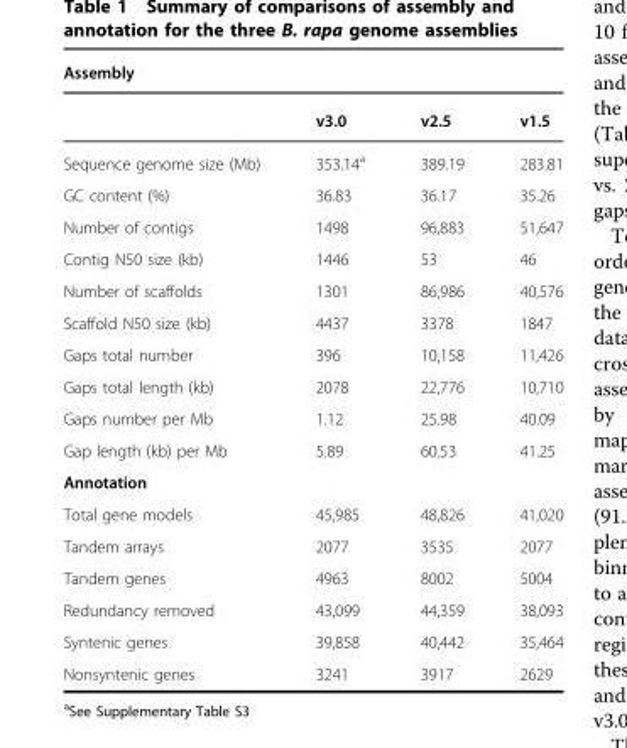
<table><thead><tr><td colspan="4">Assembly</td></tr><tr><td></td><td>v3.0</td><td>v2.5</td><td>v1.5</td></tr></thead><tbody><tr><td>Sequence genome size (Mb)</td><td>353.14<sup>a</sup></td><td>389.19</td><td>283.81</td></tr><tr><td>GC content (%)</td><td>36.83</td><td>36.17</td><td>35.26</td></tr><tr><td>Number of contigs</td><td>1498</td><td>96,883</td><td>51,647</td></tr><tr><td>Contig N50 size (kb)</td><td>1446</td><td>53</td><td>46</td></tr><tr><td>Number of scaffolds</td><td>1301</td><td>86,986</td><td>40,576</td></tr><tr><td>Scaffold N50 size (kb)</td><td>4437</td><td>3378</td><td>1847</td></tr><tr><td>Gaps total number</td><td>396</td><td>10,158</td><td>11,426</td></tr><tr><td>Gaps total length (kb)</td><td>2078</td><td>22,776</td><td>10,710</td></tr><tr><td>Gaps number per Mb</td><td>1.12</td><td>25.98</td><td>40.09</td></tr><tr><td>Gap length (kb) per Mb</td><td>5.89</td><td>60.53</td><td>41.25</td></tr><tr><td colspan="4">Annotation</td></tr><tr><td>Total gene models</td><td>45,985</td><td>48,826</td><td>41,020</td></tr><tr><td>Tandem arrays</td><td>2077</td><td>3535</td><td>2077</td></tr><tr><td>Tandem genes</td><td>4963</td><td>8002</td><td>5004</td></tr><tr><td>Redundancy removed</td><td>43,099</td><td>44,359</td><td>38,093</td></tr><tr><td>Syntenic genes</td><td>39,858</td><td>40,442</td><td>35,464</td></tr><tr><td>Nonsyntenic genes</td><td>3241</td><td>3917</td><td>2629</td></tr></tbody></table>